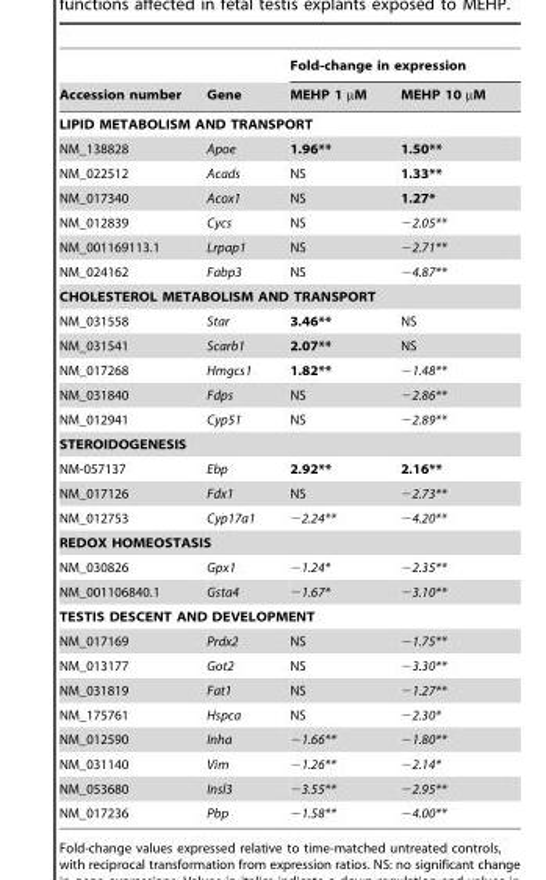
<table><thead><tr><td rowspan="2">Accession number</td><td rowspan="2">Gene</td><td colspan="2">Fold-change in expression</td></tr><tr><td>MEHP 1 µM</td><td>MEHP 10 µM</td></tr></thead><tbody><tr><td colspan="4">LIPID METABOLISM AND TRANSPORT</td></tr><tr><td>NM_138828</td><td>Apoe</td><td>1.96**</td><td>1.50**</td></tr><tr><td>NM_022512</td><td>Acads</td><td>NS</td><td>1.33**</td></tr><tr><td>NM_017340</td><td>Acox1</td><td>NS</td><td>1.27*</td></tr><tr><td>NM_012839</td><td>Cycs</td><td>NS</td><td>−2.05**</td></tr><tr><td>NM_001169113.1</td><td>Lrpap1</td><td>NS</td><td>−2.71**</td></tr><tr><td>NM_024162</td><td>Fabp3</td><td>NS</td><td>−4.87**</td></tr><tr><td colspan="4">CHOLESTEROL METABOLISM AND TRANSPORT</td></tr><tr><td>NM_031558</td><td>Star</td><td>3.46**</td><td>NS</td></tr><tr><td>NM_031541</td><td>Scarb1</td><td>2.07**</td><td>NS</td></tr><tr><td>NM_017268</td><td>Hmgcs1</td><td>1.82**</td><td>−1.48**</td></tr><tr><td>NM_031840</td><td>Fdps</td><td>NS</td><td>−2.86**</td></tr><tr><td>NM_012941</td><td>Cyp51</td><td>NS</td><td>−2.89**</td></tr><tr><td colspan="4">STEROIDOGENESIS</td></tr><tr><td>NM-057137</td><td>Ebp</td><td>2.92**</td><td>2.16**</td></tr><tr><td>NM_017126</td><td>Fdx1</td><td>NS</td><td>−2.73**</td></tr><tr><td>NM_012753</td><td>Cyp17a1</td><td>−2.24**</td><td>−4.20**</td></tr><tr><td colspan="4">REDOX HOMEOSTASIS</td></tr><tr><td>NM_030826</td><td>Gpx1</td><td>−1.24*</td><td>−2.35**</td></tr><tr><td>NM_001106840.1</td><td>Gsta4</td><td>−1.67*</td><td>−3.10**</td></tr><tr><td colspan="4">TESTIS DESCENT AND DEVELOPMENT</td></tr><tr><td>NM_017169</td><td>Prdx2</td><td>NS</td><td>−1.75**</td></tr><tr><td>NM_013177</td><td>Got2</td><td>NS</td><td>−3.30**</td></tr><tr><td>NM_031819</td><td>Fat1</td><td>NS</td><td>−1.27**</td></tr><tr><td>NM_175761</td><td>Hspca</td><td>NS</td><td>−2.30*</td></tr><tr><td>NM_012590</td><td>Inha</td><td>−1.66**</td><td>−1.80**</td></tr><tr><td>NM_031140</td><td>Vim</td><td>−1.26**</td><td>−2.14*</td></tr><tr><td>NM_053680</td><td>Insl3</td><td>−3.55**</td><td>−2.95**</td></tr><tr><td>NM_017236</td><td>Pbp</td><td>−1.58**</td><td>−4.00**</td></tr></tbody></table>